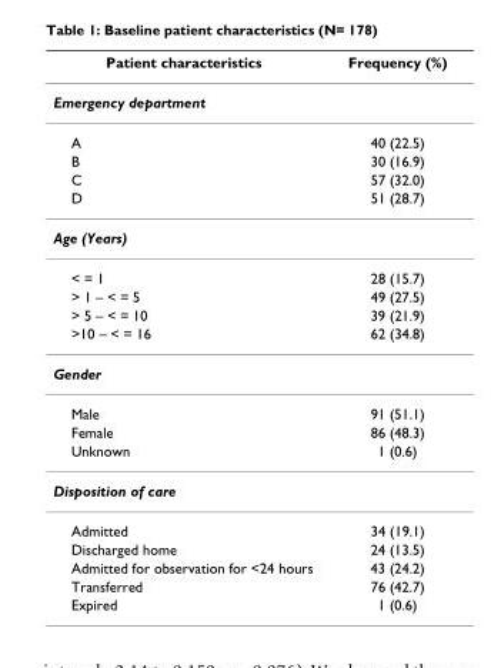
<table><thead><tr><td>Patient characteristics</td><td>Frequency (%)</td></tr></thead><tbody><tr><td colspan="2">Emergency department</td></tr><tr><td>A</td><td>40 (22.5)</td></tr><tr><td>B</td><td>30 (16.9)</td></tr><tr><td>C</td><td>57 (32.0)</td></tr><tr><td>D</td><td>51 (28.7)</td></tr><tr><td colspan="2">Age (Years)</td></tr><tr><td>&lt; = 1</td><td>28 (15.7)</td></tr><tr><td>&gt; 1 – &lt; = 5</td><td>49 (27.5)</td></tr><tr><td>&gt; 5 – &lt; = 10</td><td>39 (21.9)</td></tr><tr><td>&gt;10 – &lt; = 16</td><td>62 (34.8)</td></tr><tr><td colspan="2">Gender</td></tr><tr><td>Male</td><td>91 (51.1)</td></tr><tr><td>Female</td><td>86 (48.3)</td></tr><tr><td>Unknown</td><td>1 (0.6)</td></tr><tr><td colspan="2">Disposition of care</td></tr><tr><td>Admitted</td><td>34 (19.1)</td></tr><tr><td>Discharged home</td><td>24 (13.5)</td></tr><tr><td>Admitted for observation for &lt;24 hours</td><td>43 (24.2)</td></tr><tr><td>Transferred</td><td>76 (42.7)</td></tr><tr><td>Expired</td><td>1 (0.6)</td></tr></tbody></table>